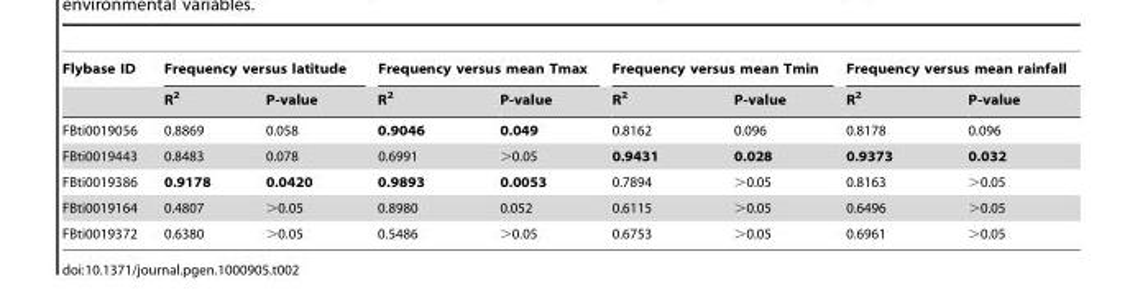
<table><thead><tr><td rowspan="2">Flybase ID</td><td colspan="2">Frequency versus latitude</td><td colspan="2">Frequency versus mean Tmax</td><td colspan="2">Frequency versus mean Tmin</td><td colspan="2">Frequency versus mean rainfall</td></tr><tr><td>R<sup>2</sup></td><td>P-value</td><td>R<sup>2</sup></td><td>P-value</td><td>R<sup>2</sup></td><td>P-value</td><td>R<sup>2</sup></td><td>P-value</td></tr></thead><tbody><tr><td>FBti0019056</td><td>0.8869</td><td>0.058</td><td>0.9046</td><td>0.049</td><td>0.8162</td><td>0.096</td><td>0.8178</td><td>0.096</td></tr><tr><td>FBti0019443</td><td>0.8483</td><td>0.078</td><td>0.6991</td><td>&gt;0.05</td><td>0.9431</td><td>0.028</td><td>0.9373</td><td>0.032</td></tr><tr><td>FBti0019386</td><td>0.9178</td><td>0.0420</td><td>0.9893</td><td>0.0053</td><td>0.7894</td><td>&gt;0.05</td><td>0.8163</td><td>&gt;0.05</td></tr><tr><td>FBti0019164</td><td>0.4807</td><td>&gt;0.05</td><td>0.8980</td><td>0.052</td><td>0.6115</td><td>&gt;0.05</td><td>0.6496</td><td>&gt;0.05</td></tr><tr><td>FBti0019372</td><td>0.6380</td><td>&gt;0.05</td><td>0.5486</td><td>&gt;0.05</td><td>0.6753</td><td>&gt;0.05</td><td>0.6961</td><td>&gt;0.05</td></tr></tbody></table>